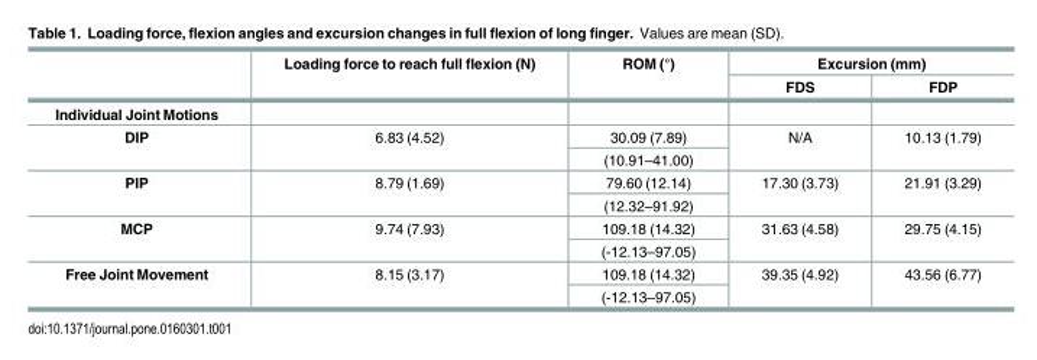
<table><thead><tr><td rowspan="2"></td><td rowspan="2">Loading force to reach full flexion (N)</td><td rowspan="2">ROM (°)</td><td colspan="2">Excursion (mm)</td></tr><tr><td>FDS</td><td>FDP</td></tr></thead><tbody><tr><td colspan="5">Individual Joint Motions</td></tr><tr><td rowspan="2">DIP</td><td rowspan="2">6.83 (4.52)</td><td>30.09 (7.89)</td><td rowspan="2">N/A</td><td rowspan="2">10.13 (1.79)</td></tr><tr><td>(10.91–41.00)</td></tr><tr><td rowspan="2">PIP</td><td rowspan="2">8.79 (1.69)</td><td>79.60 (12.14)</td><td rowspan="2">17.30 (3.73)</td><td rowspan="2">21.91 (3.29)</td></tr><tr><td>(12.32–91.92)</td></tr><tr><td rowspan="2">MCP</td><td rowspan="2">9.74 (7.93)</td><td>109.18 (14.32)</td><td rowspan="2">31.63 (4.58)</td><td rowspan="2">29.75 (4.15)</td></tr><tr><td>(-12.13–97.05)</td></tr><tr><td rowspan="2">Free Joint Movement</td><td rowspan="2">8.15 (3.17)</td><td>109.18 (14.32)</td><td rowspan="2">39.35 (4.92)</td><td rowspan="2">43.56 (6.77)</td></tr><tr><td>(-12.13–97.05)</td></tr></tbody></table>